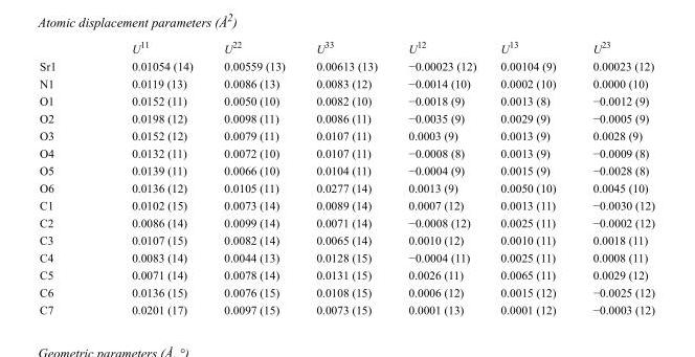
<table><thead><tr><td></td><td>U<sup>11</sup></td><td>U<sup>22</sup></td><td>U<sup>33</sup></td><td>U<sup>12</sup></td><td>U<sup>13</sup></td><td>U<sup>23</sup></td></tr></thead><tbody><tr><td>Sr1</td><td>0.01054 (14)</td><td>0.00559 (13)</td><td>0.00613 (13)</td><td>−0.00023 (12)</td><td>0.00104 (9)</td><td>0.00023 (12)</td></tr><tr><td>N1</td><td>0.0119 (13)</td><td>0.0086 (13)</td><td>0.0083 (12)</td><td>−0.0014 (10)</td><td>0.0002 (10)</td><td>0.0000 (10)</td></tr><tr><td>O1</td><td>0.0152 (11)</td><td>0.0050 (10)</td><td>0.0082 (10)</td><td>−0.0018 (9)</td><td>0.0013 (8)</td><td>−0.0012 (9)</td></tr><tr><td>O2</td><td>0.0198 (12)</td><td>0.0098 (11)</td><td>0.0086 (11)</td><td>−0.0035 (9)</td><td>0.0029 (9)</td><td>−0.0005 (9)</td></tr><tr><td>O3</td><td>0.0152 (12)</td><td>0.0079 (11)</td><td>0.0107 (11)</td><td>0.0003 (9)</td><td>0.0013 (9)</td><td>0.0028 (9)</td></tr><tr><td>O4</td><td>0.0132 (11)</td><td>0.0072 (10)</td><td>0.0107 (11)</td><td>−0.0008 (8)</td><td>0.0013 (9)</td><td>−0.0009 (8)</td></tr><tr><td>O5</td><td>0.0139 (11)</td><td>0.0066 (10)</td><td>0.0104 (11)</td><td>−0.0004 (9)</td><td>0.0015 (9)</td><td>−0.0028 (8)</td></tr><tr><td>O6</td><td>0.0136 (12)</td><td>0.0105 (11)</td><td>0.0277 (14)</td><td>0.0013 (9)</td><td>0.0050 (10)</td><td>0.0045 (10)</td></tr><tr><td>C1</td><td>0.0102 (15)</td><td>0.0073 (14)</td><td>0.0089 (14)</td><td>0.0007 (12)</td><td>0.0013 (11)</td><td>−0.0030 (12)</td></tr><tr><td>C2</td><td>0.0086 (14)</td><td>0.0099 (14)</td><td>0.0071 (14)</td><td>−0.0008 (12)</td><td>0.0025 (11)</td><td>−0.0002 (12)</td></tr><tr><td>C3</td><td>0.0107 (15)</td><td>0.0082 (14)</td><td>0.0065 (14)</td><td>0.0010 (12)</td><td>0.0010 (11)</td><td>0.0018 (11)</td></tr><tr><td>C4</td><td>0.0083 (14)</td><td>0.0044 (13)</td><td>0.0128 (15)</td><td>−0.0004 (11)</td><td>0.0025 (11)</td><td>0.0008 (11)</td></tr><tr><td>C5</td><td>0.0071 (14)</td><td>0.0078 (14)</td><td>0.0131 (15)</td><td>0.0026 (11)</td><td>0.0065 (11)</td><td>0.0029 (12)</td></tr><tr><td>C6</td><td>0.0136 (15)</td><td>0.0076 (15)</td><td>0.0108 (15)</td><td>0.0006 (12)</td><td>0.0015 (12)</td><td>−0.0025 (12)</td></tr><tr><td>C7</td><td>0.0201 (17)</td><td>0.0097 (15)</td><td>0.0073 (15)</td><td>0.0001 (13)</td><td>0.0001 (12)</td><td>−0.0003 (12)</td></tr></tbody></table>